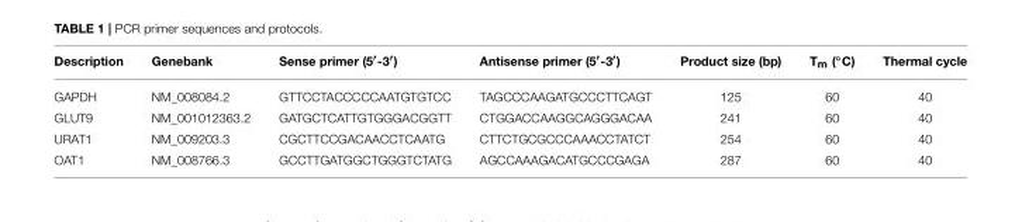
<table><thead><tr><td>Description</td><td>Genebank</td><td>Sense primer (5′-3′)</td><td>Antisense primer (5′-3′)</td><td>Product size (bp)</td><td>Tm (◦C)</td><td>Thermal cycle</td></tr></thead><tbody><tr><td>GAPDH</td><td>NM_008084.2</td><td>GTTCCTACCCCCAATGTGTCC</td><td>TAGCCCAAGATGCCCTTCAGT</td><td>125</td><td>60</td><td>40</td></tr><tr><td>GLUT9</td><td>NM_001012363.2</td><td>GATGCTCATTGTGGGACGGTT</td><td>CTGGACCAAGGCAGGGACAA</td><td>241</td><td>60</td><td>40</td></tr><tr><td>URAT1</td><td>NM_009203.3</td><td>CGCTTCCGACAACCTCAATG</td><td>CTTCTGCGCCCAAACCTATCT</td><td>254</td><td>60</td><td>40</td></tr><tr><td>OAT1</td><td>NM_008766.3</td><td>GCCTTGATGGCTGGGTCTATG</td><td>AGCCAAAGACATGCCCGAGA</td><td>287</td><td>60</td><td>40</td></tr></tbody></table>